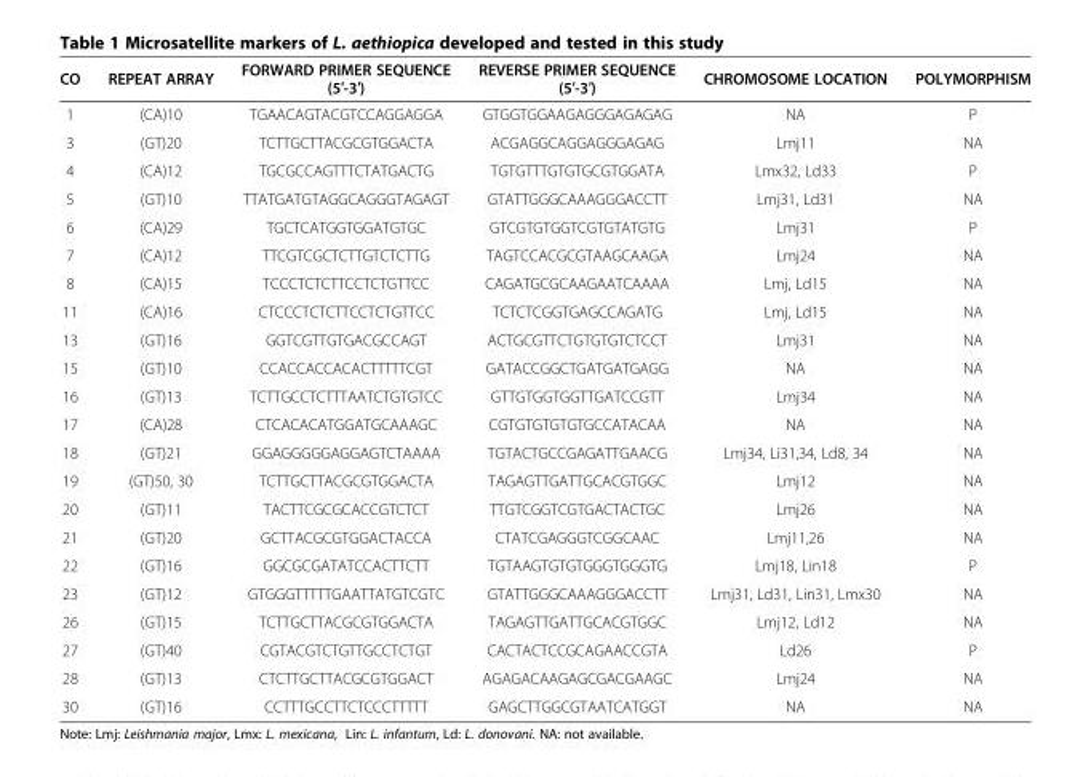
<table><thead><tr><td>CO</td><td>REPEAT ARRAY</td><td>FORWARD PRIMER SEQUENCE (5′-3′)</td><td>REVERSE PRIMER SEQUENCE (5′-3′)</td><td>CHROMOSOME LOCATION</td><td>POLYMORPHISM</td></tr></thead><tbody><tr><td>1</td><td>(CA)10</td><td>TGAACAGTACGTCCAGGAGGA</td><td>GTGGTGGAAGAGGGAGAGAG</td><td>NA</td><td>P</td></tr><tr><td>3</td><td>(GT)20</td><td>TCTTGCTTACGCGTGGACTA</td><td>ACGAGGCAGGAGGGAGAG</td><td>Lmj11</td><td>NA</td></tr><tr><td>4</td><td>(CA)12</td><td>TGCGCCAGTTTCTATGACTG</td><td>TGTGTTTGTGTGCGTGGATA</td><td>Lmx32, Ld33</td><td>P</td></tr><tr><td>5</td><td>(GT)10</td><td>TTATGATGTAGGCAGGGTAGAGT</td><td>GTATTGGGCAAAGGGACCTT</td><td>Lmj31, Ld31</td><td>NA</td></tr><tr><td>6</td><td>(CA)29</td><td>TGCTCATGGTGGATGTGC</td><td>GTCGTGTGGTCGTGTATGTG</td><td>Lmj31</td><td>P</td></tr><tr><td>7</td><td>(CA)12</td><td>TTCGTCGCTCTTGTCTCTTG</td><td>TAGTCCACGCGTAAGCAAGA</td><td>Lmj24</td><td>NA</td></tr><tr><td>8</td><td>(CA)15</td><td>TCCCTCTCTTCCTCTGTTCC</td><td>CAGATGCGCAAGAATCAAAA</td><td>Lmj, Ld15</td><td>NA</td></tr><tr><td>11</td><td>(CA)16</td><td>CTCCCTCTCTTCCTCTGTTCC</td><td>TCTCTCGGTGAGCCAGATG</td><td>Lmj, Ld15</td><td>NA</td></tr><tr><td>13</td><td>(GT)16</td><td>GGTCGTTGTGACGCCAGT</td><td>ACTGCGTTCTGTGTGTCTCCT</td><td>Lmj31</td><td>NA</td></tr><tr><td>15</td><td>(GT)10</td><td>CCACCACCACACTTTTTCGT</td><td>GATACCGGCTGATGATGAGG</td><td>NA</td><td>NA</td></tr><tr><td>16</td><td>(GT)13</td><td>TCTTGCCTCTTTAATCTGTGTCC</td><td>GTTGTGGTGGTTGATCCGTT</td><td>Lmj34</td><td>NA</td></tr><tr><td>17</td><td>(CA)28</td><td>CTCACACATGGATGCAAAGC</td><td>CGTGTGTGTGTGCCATACAA</td><td>NA</td><td>NA</td></tr><tr><td>18</td><td>(GT)21</td><td>GGAGGGGGAGGAGTCTAAAA</td><td>TGTACTGCCGAGATTGAACG</td><td>Lmj34, Li31,34, Ld8, 34</td><td>NA</td></tr><tr><td>19</td><td>(GT)50, 30</td><td>TCTTGCTTACGCGTGGACTA</td><td>TAGAGTTGATTGCACGTGGC</td><td>Lmj12</td><td>NA</td></tr><tr><td>20</td><td>(GT)11</td><td>TACTTCGCGCACCGTCTCT</td><td>TTGTCGGTCGTGACTACTGC</td><td>Lmj26</td><td>NA</td></tr><tr><td>21</td><td>(GT)20</td><td>GCTTACGCGTGGACTACCA</td><td>CTATCGAGGGTCGGCAAC</td><td>Lmj11,26</td><td>NA</td></tr><tr><td>22</td><td>(GT)16</td><td>GGCGCGATATCCACTTCTT</td><td>TGTAAGTGTGTGGGTGGGTG</td><td>Lmj18, Lin18</td><td>P</td></tr><tr><td>23</td><td>(GT)12</td><td>GTGGGTTTTTGAATTATGTCGTC</td><td>GTATTGGGCAAAGGGACCTT</td><td>Lmj31, Ld31, Lin31, Lmx30</td><td>NA</td></tr><tr><td>26</td><td>(GT)15</td><td>TCTTGCTTACGCGTGGACTA</td><td>TAGAGTTGATTGCACGTGGC</td><td>Lmj12, Ld12</td><td>NA</td></tr><tr><td>27</td><td>(GT)40</td><td>CGTACGTCTGTTGCCTCTGT</td><td>CACTACTCCGCAGAACCGTA</td><td>Ld26</td><td>P</td></tr><tr><td>28</td><td>(GT)13</td><td>CTCTTGCTTACGCGTGGACT</td><td>AGAGACAAGAGCGACGAAGC</td><td>Lmj24</td><td>NA</td></tr><tr><td>30</td><td>(GT)16</td><td>CCTTTGCCTTCTCCCTTTTT</td><td>GAGCTTGGCGTAATCATGGT</td><td>NA</td><td>NA</td></tr></tbody></table>